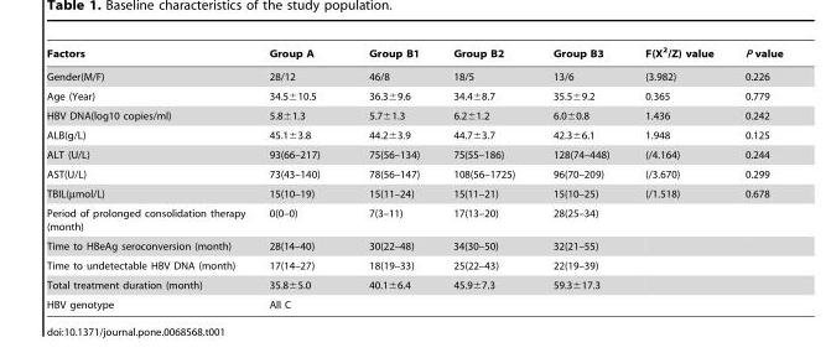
<table><thead><tr><td>Factors</td><td>Group A</td><td>Group B1</td><td>Group B2</td><td>Group B3</td><td>F(X<sup>2</sup>/Z) value</td><td>P value</td></tr></thead><tbody><tr><td>Gender(M/F)</td><td>28/12</td><td>46/8</td><td>18/5</td><td>13/6</td><td>(3.982)</td><td>0.226</td></tr><tr><td>Age (Year)</td><td>34.5±10.5</td><td>36.3±9.6</td><td>34.4±8.7</td><td>35.5±9.2</td><td>0.365</td><td>0.779</td></tr><tr><td>HBV DNA(log10 copies/ml)</td><td>5.8±1.3</td><td>5.7±1.3</td><td>6.2±1.2</td><td>6.0±0.8</td><td>1.436</td><td>0.242</td></tr><tr><td>ALB(g/L)</td><td>45.1±3.8</td><td>44.2±3.9</td><td>44.7±3.7</td><td>42.3±6.1</td><td>1.948</td><td>0.125</td></tr><tr><td>ALT (U/L)</td><td>93(66–217)</td><td>75(56–134)</td><td>75(55–186)</td><td>128(74–448)</td><td>(/4.164)</td><td>0.244</td></tr><tr><td>AST(U/L)</td><td>73(43–140)</td><td>78(56–147)</td><td>108(56–1725)</td><td>96(70–209)</td><td>(/3.670)</td><td>0.299</td></tr><tr><td>TBIL(µmol/L)</td><td>15(10–19)</td><td>15(11–24)</td><td>15(11–21)</td><td>15(10–25)</td><td>(/1.518)</td><td>0.678</td></tr><tr><td>Period of prolonged consolidation therapy (month)</td><td>0(0–0)</td><td>7(3–11)</td><td>17(13–20)</td><td>28(25–34)</td><td></td><td></td></tr><tr><td>Time to HBeAg seroconversion (month)</td><td>28(14–40)</td><td>30(22–48)</td><td>34(30–50)</td><td>32(21–55)</td><td></td><td></td></tr><tr><td>Time to undetectable HBV DNA (month)</td><td>17(14–27)</td><td>18(19–33)</td><td>25(22–43)</td><td>22(19–39)</td><td></td><td></td></tr><tr><td>Total treatment duration (month)</td><td>35.8±5.0</td><td>40.1±6.4</td><td>45.9±7.3</td><td>59.3±17.3</td><td></td><td></td></tr><tr><td>HBV genotype</td><td colspan="6">All C</td></tr></tbody></table>